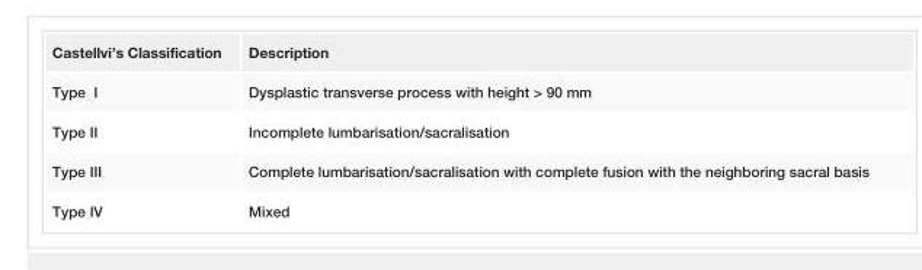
<table><tbody><tr><td>Castellvi’s Classification</td><td>Description</td></tr><tr><td>Type I</td><td>Dysplastic transverse process with height &gt; 90 mm</td></tr><tr><td>Type II</td><td>Incomplete lumbarisation/sacralisation</td></tr><tr><td>Type III</td><td>Complete lumbarisation/sacralisation with complete fusion with the neighboring sacral basis</td></tr><tr><td>Type IV</td><td>Mixed</td></tr></tbody></table>